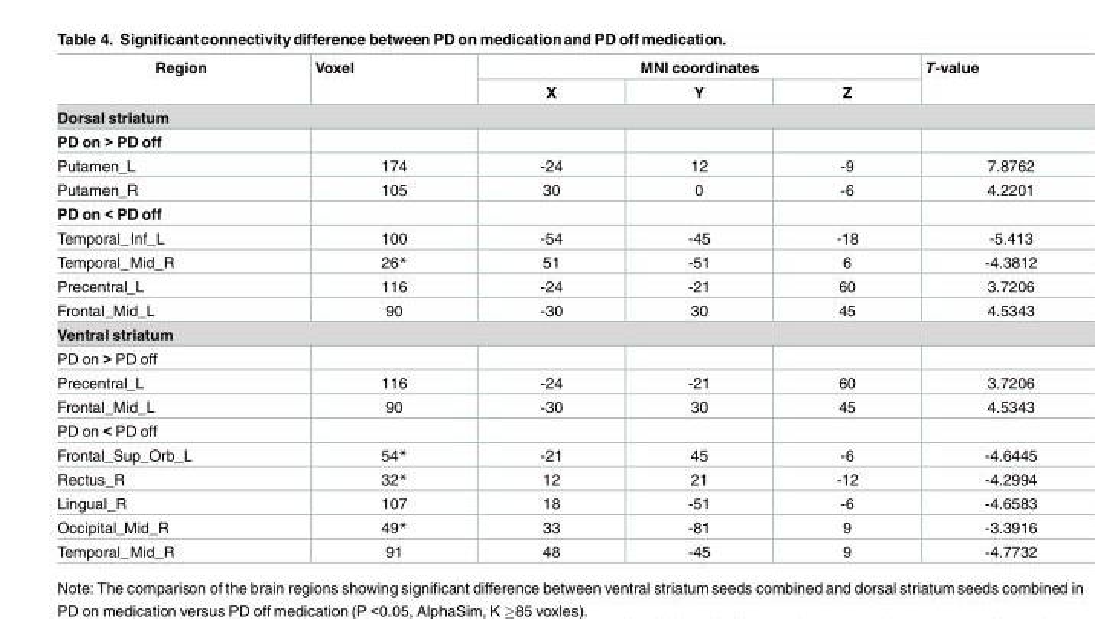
<table><thead><tr><td rowspan="2">Region</td><td rowspan="2">Voxel</td><td colspan="3">MNI coordinates</td><td rowspan="2">T-value</td></tr><tr><td>X</td><td>Y</td><td>Z</td></tr></thead><tbody><tr><td colspan="6">Dorsal striatum</td></tr><tr><td colspan="6">PD on &gt; PD off</td></tr><tr><td>Putamen_L</td><td>174</td><td>-24</td><td>12</td><td>-9</td><td>7.8762</td></tr><tr><td>Putamen_R</td><td>105</td><td>30</td><td>0</td><td>-6</td><td>4.2201</td></tr><tr><td colspan="6">PD on &lt; PD off</td></tr><tr><td>Temporal_Inf_L</td><td>100</td><td>-54</td><td>-45</td><td>-18</td><td>-5.413</td></tr><tr><td>Temporal_Mid_R</td><td>26*</td><td>51</td><td>-51</td><td>6</td><td>-4.3812</td></tr><tr><td>Precentral_L</td><td>116</td><td>-24</td><td>-21</td><td>60</td><td>3.7206</td></tr><tr><td>Frontal_Mid_L</td><td>90</td><td>-30</td><td>30</td><td>45</td><td>4.5343</td></tr><tr><td colspan="6">Ventral striatum</td></tr><tr><td colspan="6">PD on &gt; PD off</td></tr><tr><td>Precentral_L</td><td>116</td><td>-24</td><td>-21</td><td>60</td><td>3.7206</td></tr><tr><td>Frontal_Mid_L</td><td>90</td><td>-30</td><td>30</td><td>45</td><td>4.5343</td></tr><tr><td colspan="6">PD on &lt; PD off</td></tr><tr><td>Frontal_Sup_Orb_L</td><td>54*</td><td>-21</td><td>45</td><td>-6</td><td>-4.6445</td></tr><tr><td>Rectus_R</td><td>32*</td><td>12</td><td>21</td><td>-12</td><td>-4.2994</td></tr><tr><td>Lingual_R</td><td>107</td><td>18</td><td>-51</td><td>-6</td><td>-4.6583</td></tr><tr><td>Occipital_Mid_R</td><td>49*</td><td>33</td><td>-81</td><td>9</td><td>-3.3916</td></tr><tr><td>Temporal_Mid_R</td><td>91</td><td>48</td><td>-45</td><td>9</td><td>-4.7732</td></tr></tbody></table>